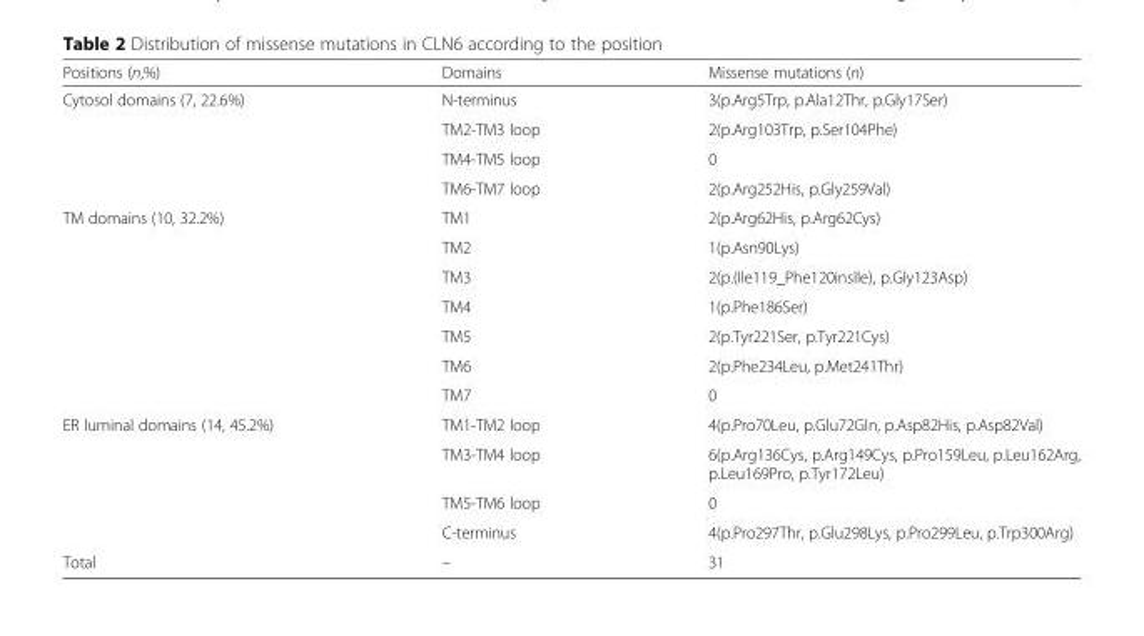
<table><thead><tr><td>Positions (n,%)</td><td>Domains</td><td>Missense mutations (n)</td></tr></thead><tbody><tr><td rowspan="4">Cytosol domains (7, 22.6%)</td><td>N-terminus</td><td>3(p.Arg5Trp, p.Ala12Thr, p.Gly17Ser)</td></tr><tr><td>TM2-TM3 loop</td><td>2(p.Arg103Trp, p.Ser104Phe)</td></tr><tr><td>TM4-TM5 loop</td><td>0</td></tr><tr><td>TM6-TM7 loop</td><td>2(p.Arg252His, p.Gly259Val)</td></tr><tr><td rowspan="7">TM domains (10, 32.2%)</td><td>TM1</td><td>2(p.Arg62His, p.Arg62Cys)</td></tr><tr><td>TM2</td><td>1(p.Asn90Lys)</td></tr><tr><td>TM3</td><td>2(p.(Ile119_Phe120insIle), p.Gly123Asp)</td></tr><tr><td>TM4</td><td>1(p.Phe186Ser)</td></tr><tr><td>TM5</td><td>2(p.Tyr221Ser, p.Tyr221Cys)</td></tr><tr><td>TM6</td><td>2(p.Phe234Leu, p.Met241Thr)</td></tr><tr><td>TM7</td><td>0</td></tr><tr><td rowspan="4">ER luminal domains (14, 45.2%)</td><td>TM1-TM2 loop</td><td>4(p.Pro70Leu, p.Glu72Gln, p.Asp82His, p.Asp82Val)</td></tr><tr><td>TM3-TM4 loop</td><td>6(p.Arg136Cys, p.Arg149Cys, p.Pro159Leu, p.Leu162Arg, p.Leu169Pro, p.Tyr172Leu)</td></tr><tr><td>TM5-TM6 loop</td><td>0</td></tr><tr><td>C-terminus</td><td>4(p.Pro297Thr, p.Glu298Lys, p.Pro299Leu, p.Trp300Arg)</td></tr><tr><td>Total</td><td>–</td><td>31</td></tr></tbody></table>